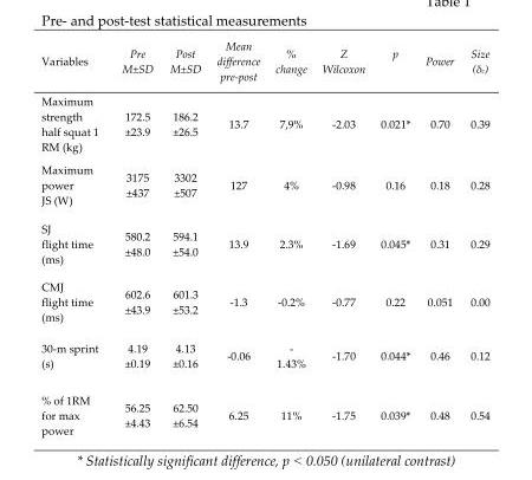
<table><thead><tr><td>Variables</td><td>Pre M±SD</td><td>Post M±SD</td><td>Mean difference pre-post</td><td>% change</td><td>Z Wilcoxon</td><td>p</td><td>Power</td><td>Size (δ<sub>c</sub>)</td></tr></thead><tbody><tr><td>Maximum strength half squat 1 RM (kg)</td><td>172.5 ±23.9</td><td>186.2 ±26.5</td><td>13.7</td><td>7,9%</td><td>-2.03</td><td>0.021*</td><td>0.70</td><td>0.39</td></tr><tr><td>Maximum power JS (W)</td><td>3175 ±437</td><td>3302 ±507</td><td>127</td><td>4%</td><td>-0.98</td><td>0.16</td><td>0.18</td><td>0.28</td></tr><tr><td>SJ flight time (ms)</td><td>580.2 ±48.0</td><td>594.1 ±54.0</td><td>13.9</td><td>2.3%</td><td>-1.69</td><td>0.045*</td><td>0.31</td><td>0.29</td></tr><tr><td>CMJ flight time (ms)</td><td>602.6 ±43.9</td><td>601.3 ±53.2</td><td>-1.3</td><td>-0.2%</td><td>-0.77</td><td>0.22</td><td>0.051</td><td>0.00</td></tr><tr><td>30-m sprint (s)</td><td>4.19 ±0.19</td><td>4.13 ±0.16</td><td>-0.06</td><td>- 1.43%</td><td>-1.70</td><td>0.044*</td><td>0.46</td><td>0.12</td></tr><tr><td>% of 1RM for max power</td><td>56.25 ±4.43</td><td>62.50 ±6.54</td><td>6.25</td><td>11%</td><td>-1.75</td><td>0.039*</td><td>0.48</td><td>0.54</td></tr></tbody></table>